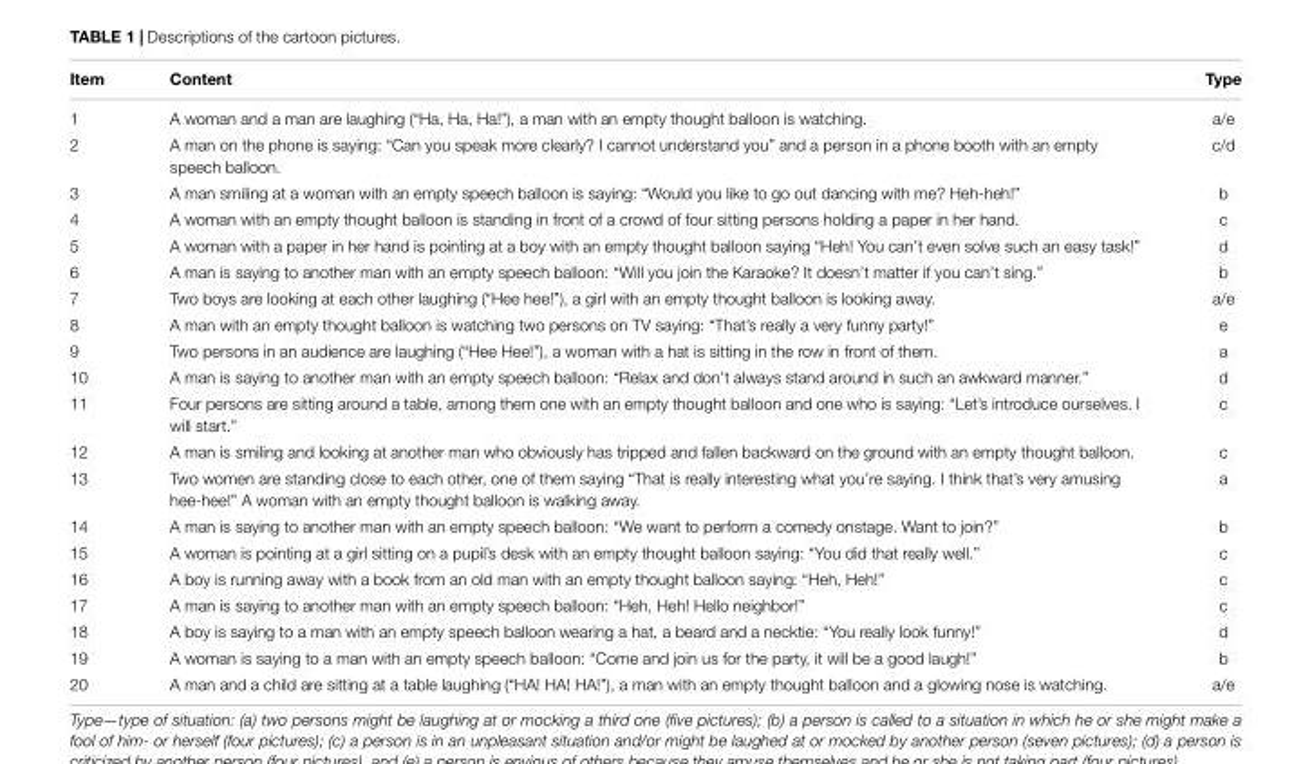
<table><thead><tr><td>Item</td><td>Content</td><td>Type</td></tr></thead><tbody><tr><td>1</td><td>A woman and a man are laughing (“Ha, Ha, Ha!”), a man with an empty thought balloon is watching.</td><td>a/e</td></tr><tr><td>2</td><td>A man on the phone is saying: “Can you speak more clearly? I cannot understand you” and a person in a phone booth with an empty speech balloon.</td><td>c/d</td></tr><tr><td>3</td><td>A man smiling at a woman with an empty speech balloon is saying: “Would you like to go out dancing with me? Heh-heh!”</td><td>b</td></tr><tr><td>4</td><td>A woman with an empty thought balloon is standing in front of a crowd of four sitting persons holding a paper in her hand.</td><td>c</td></tr><tr><td>5</td><td>A woman with a paper in her hand is pointing at a boy with an empty thought balloon saying “Heh! You can’t even solve such an easy task!”</td><td>d</td></tr><tr><td>6</td><td>A man is saying to another man with an empty speech balloon: “Will you join the Karaoke? It doesn’t matter if you can’t sing.”</td><td>b</td></tr><tr><td>7</td><td>Two boys are looking at each other laughing (“Hee hee!”), a girl with an empty thought balloon is looking away.</td><td>a/e</td></tr><tr><td>8</td><td>A man with an empty thought balloon is watching two persons on TV saying: “That’s really a very funny party!”</td><td>e</td></tr><tr><td>9</td><td>Two persons in an audience are laughing (“Hee Hee!”), a woman with a hat is sitting in the row in front of them.</td><td>a</td></tr><tr><td>10</td><td>A man is saying to another man with an empty speech balloon: “Relax and don’t always stand around in such an awkward manner.”</td><td>d</td></tr><tr><td>11</td><td>Four persons are sitting around a table, among them one with an empty thought balloon and one who is saying: “Let’s introduce ourselves. I will start.”</td><td>c</td></tr><tr><td>12</td><td>A man is smiling and looking at another man who obviously has tripped and fallen backward on the ground with an empty thought balloon.</td><td>c</td></tr><tr><td>13</td><td>Two women are standing close to each other, one of them saying “That is really interesting what you’re saying. I think that’s very amusing hee-hee!” A woman with an empty thought balloon is walking away.</td><td>a</td></tr><tr><td>14</td><td>A man is saying to another man with an empty speech balloon: “We want to perform a comedy onstage. Want to join?”</td><td>b</td></tr><tr><td>15</td><td>A woman is pointing at a girl sitting on a pupil’s desk with an empty thought balloon saying: “You did that really well.”</td><td>c</td></tr><tr><td>16</td><td>A boy is running away with a book from an old man with an empty thought balloon saying: “Heh, Heh!”</td><td>c</td></tr><tr><td>17</td><td>A man is saying to another man with an empty speech balloon: “Heh, Heh! Hello neighbor!”</td><td>c</td></tr><tr><td>18</td><td>A boy is saying to a man with an empty speech balloon wearing a hat, a beard and a necktie: “You really look funny!”</td><td>d</td></tr><tr><td>19</td><td>A woman is saying to a man with an empty speech balloon: “Come and join us for the party, it will be a good laugh!”</td><td>b</td></tr><tr><td>20</td><td>A man and a child are sitting at a table laughing (“HA! HA! HA!”), a man with an empty thought balloon and a glowing nose is watching.</td><td>a/e</td></tr></tbody></table>